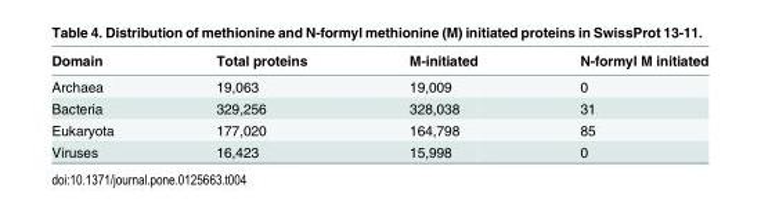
<table><thead><tr><td>Domain</td><td>Total proteins</td><td>M-initiated</td><td>N-formyl M initiated</td></tr></thead><tbody><tr><td>Archaea</td><td>19,063</td><td>19,009</td><td>0</td></tr><tr><td>Bacteria</td><td>329,256</td><td>328,038</td><td>31</td></tr><tr><td>Eukaryota</td><td>177,020</td><td>164,798</td><td>85</td></tr><tr><td>Viruses</td><td>16,423</td><td>15,998</td><td>0</td></tr></tbody></table>